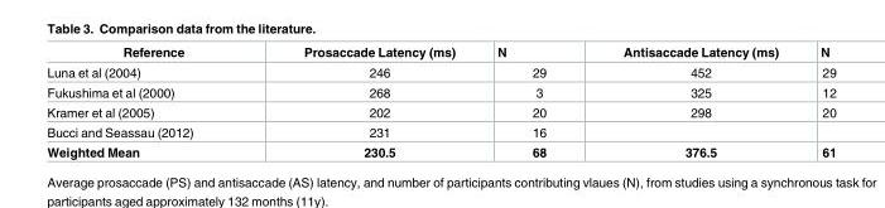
<table><thead><tr><td>Reference</td><td>Prosaccade Latency (ms)</td><td>N</td><td>Antisaccade Latency (ms)</td><td>N</td></tr></thead><tbody><tr><td>Luna et al (2004)</td><td>246</td><td>29</td><td>452</td><td>29</td></tr><tr><td>Fukushima et al (2000)</td><td>268</td><td>3</td><td>325</td><td>12</td></tr><tr><td>Kramer et al (2005)</td><td>202</td><td>20</td><td>298</td><td>20</td></tr><tr><td>Bucci and Seassau (2012)</td><td>231</td><td>16</td><td></td><td></td></tr><tr><td>Weighted Mean</td><td>230.5</td><td>68</td><td>376.5</td><td>61</td></tr></tbody></table>